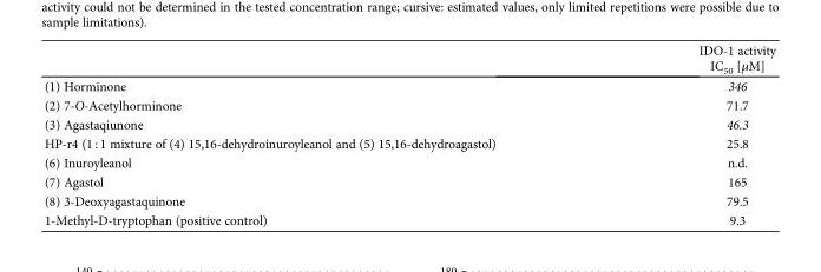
<table><thead><tr><td></td><td>IDO-1 activity IC<sub>50</sub> [μM]</td></tr></thead><tbody><tr><td>(1) Horminone</td><td>346</td></tr><tr><td>(2) 7-O-Acetylhorminone</td><td>71.7</td></tr><tr><td>(3) Agastaqiunone</td><td>46.3</td></tr><tr><td>HP-r4 (1 : 1 mixture of (4) 15,16-dehydroinuroyleanol and (5) 15,16-dehydroagastol)</td><td>25.8</td></tr><tr><td>(6) Inuroyleanol</td><td>n.d.</td></tr><tr><td>(7) Agastol</td><td>165</td></tr><tr><td>(8) 3-Deoxyagastaquinone</td><td>79.5</td></tr><tr><td>1-Methyl-D-tryptophan (positive control)</td><td>9.3</td></tr></tbody></table>